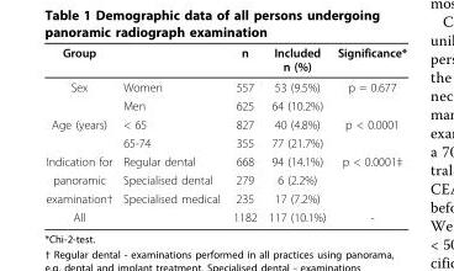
<table><thead><tr><td>Group</td><td></td><td>n</td><td>Included n (%)</td><td>Significance*</td></tr></thead><tbody><tr><td rowspan="2">Sex</td><td>Women</td><td>557</td><td>53 (9.5%)</td><td>p = 0.677</td></tr><tr><td>Men</td><td>625</td><td>64 (10.2%)</td><td></td></tr><tr><td rowspan="2">Age (years)</td><td>&lt; 65</td><td>827</td><td>40 (4.8%)</td><td>p &lt; 0.0001</td></tr><tr><td>65-74</td><td>355</td><td>77 (21.7%)</td><td></td></tr><tr><td>Indication for</td><td>Regular dental</td><td>668</td><td>94 (14.1%)</td><td>p &lt; 0.0001‡</td></tr><tr><td>panoramic</td><td>Specialised dental</td><td>279</td><td>6 (2.2%)</td><td></td></tr><tr><td>examination†</td><td>Specialised medical</td><td>235</td><td>17 (7.2%)</td><td></td></tr><tr><td>All</td><td></td><td>1182</td><td>117 (10.1%)</td><td>-</td></tr></tbody></table>